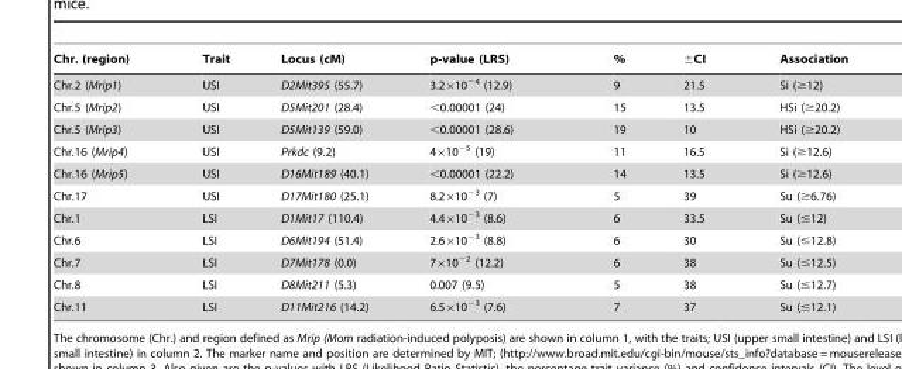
<table><thead><tr><td>Chr. (region)</td><td>Trait</td><td>Locus (cM)</td><td>p-value (LRS)</td><td>%</td><td>±CI</td><td>Association</td></tr></thead><tbody><tr><td>Chr.2 (Mrip1)</td><td>USI</td><td>D2Mit395 (55.7)</td><td>3.2×10<sup>−4</sup> (12.9)</td><td>9</td><td>21.5</td><td>Si (≥12)</td></tr><tr><td>Chr.5 (Mrip2)</td><td>USI</td><td>D5Mit201 (28.4)</td><td>&lt;0.00001 (24)</td><td>15</td><td>13.5</td><td>HSi (≥20.2)</td></tr><tr><td>Chr.5 (Mrip3)</td><td>USI</td><td>D5Mit139 (59.0)</td><td>&lt;0.00001 (28.6)</td><td>19</td><td>10</td><td>HSi (≥20.2)</td></tr><tr><td>Chr.16 (Mrip4)</td><td>USI</td><td>Prkdc (9.2)</td><td>4×10<sup>−5</sup> (19)</td><td>11</td><td>16.5</td><td>Si (≥12.6)</td></tr><tr><td>Chr.16 (Mrip5)</td><td>USI</td><td>D16Mit189 (40.1)</td><td>&lt;0.00001 (22.2)</td><td>14</td><td>13.5</td><td>Si (≥12.6)</td></tr><tr><td>Chr.17</td><td>USI</td><td>D17Mit180 (25.1)</td><td>8.2×10<sup>−3</sup> (7)</td><td>5</td><td>39</td><td>Su (≥6.76)</td></tr><tr><td>Chr.1</td><td>LSI</td><td>D1Mit17 (110.4)</td><td>4.4×10<sup>−3</sup> (8.6)</td><td>6</td><td>33.5</td><td>Su (≤12)</td></tr><tr><td>Chr.6</td><td>LSI</td><td>D6Mit194 (51.4)</td><td>2.6×10<sup>−3</sup> (8.8)</td><td>6</td><td>30</td><td>Su (≤12.8)</td></tr><tr><td>Chr.7</td><td>LSI</td><td>D7Mit178 (0.0)</td><td>7×10<sup>−2</sup> (12.2)</td><td>6</td><td>38</td><td>Su (≤12.5)</td></tr><tr><td>Chr.8</td><td>LSI</td><td>D8Mit211 (5.3)</td><td>0.007 (9.5)</td><td>5</td><td>38</td><td>Su (≤12.7)</td></tr><tr><td>Chr.11</td><td>LSI</td><td>D11Mit216 (14.2)</td><td>6.5×10<sup>−3</sup> (7.6)</td><td>7</td><td>37</td><td>Su (≤12.1)</td></tr></tbody></table>